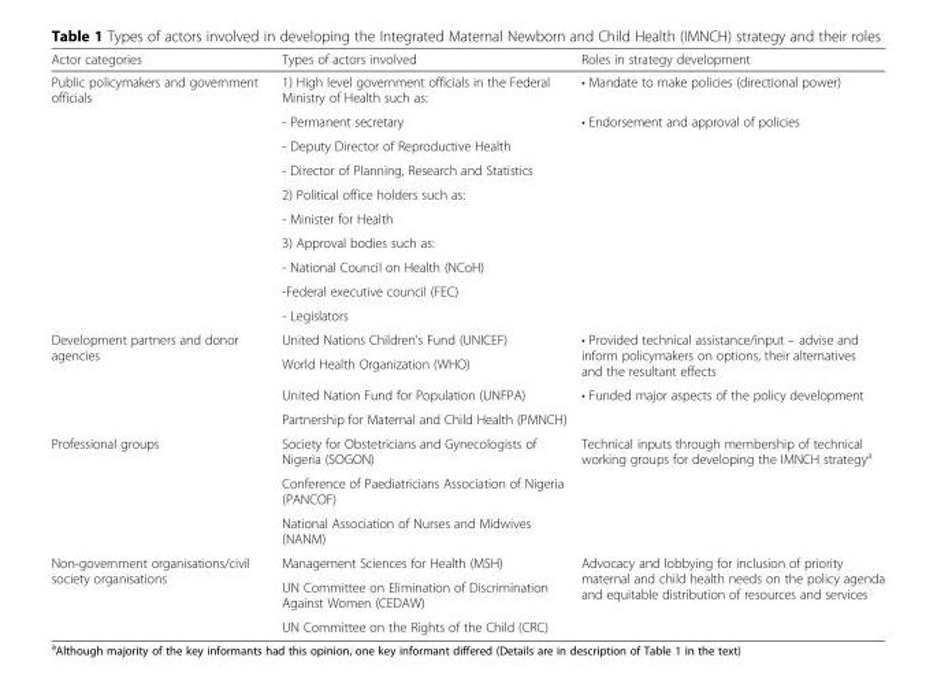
<table><thead><tr><td>Actor categories</td><td>Types of actors involved</td><td>Roles in strategy development</td></tr></thead><tbody><tr><td rowspan="10">Public policymakers and government officials</td><td>1) High level government officials in the Federal Ministry of Health such as:</td><td>• Mandate to make policies (directional power)</td></tr><tr><td>- Permanent secretary</td><td rowspan="9">• Endorsement and approval of policies</td></tr><tr><td>- Deputy Director of Reproductive Health</td></tr><tr><td>- Director of Planning, Research and Statistics</td></tr><tr><td>2) Political office holders such as:</td></tr><tr><td>- Minister for Health</td></tr><tr><td>3) Approval bodies such as:</td></tr><tr><td>- National Council on Health (NCoH)</td></tr><tr><td>-Federal executive council (FEC)</td></tr><tr><td>- Legislators</td></tr><tr><td rowspan="4">Development partners and donor agencies</td><td>United Nations Children’s Fund (UNICEF)</td><td rowspan="2">• Provided technical assistance/input – advise and inform policymakers on options, their alternatives and the resultant effects</td></tr><tr><td>World Health Organization (WHO)</td></tr><tr><td>United Nation Fund for Population (UNFPA)</td><td rowspan="2">• Funded major aspects of the policy development</td></tr><tr><td>Partnership for Maternal and Child Health (PMNCH)</td></tr><tr><td rowspan="3">Professional groups</td><td>Society for Obstetricians and Gynecologists of Nigeria (SOGON)</td><td rowspan="3">Technical inputs through membership of technical working groups for developing the IMNCH strategy<sup>a</sup></td></tr><tr><td>Conference of Paediatricians Association of Nigeria (PANCOF)</td></tr><tr><td>National Association of Nurses and Midwives (NANM)</td></tr><tr><td rowspan="3">Non-government organisations/civil society organisations</td><td>Management Sciences for Health (MSH)</td><td rowspan="3">Advocacy and lobbying for inclusion of priority maternal and child health needs on the policy agenda and equitable distribution of resources and services</td></tr><tr><td>UN Committee on Elimination of Discrimination Against Women (CEDAW)</td></tr><tr><td>UN Committee on the Rights of the Child (CRC)</td></tr></tbody></table>